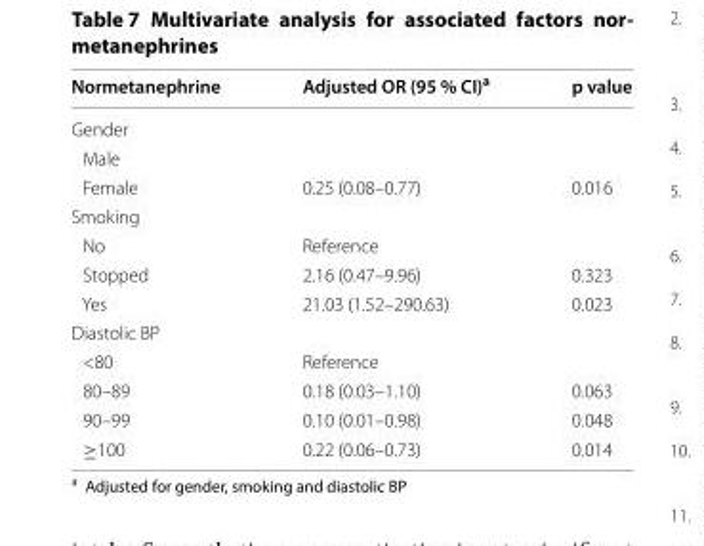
<table><thead><tr><td>Normetanephrine</td><td>Adjusted OR (95 % CI)<sup>a</sup></td><td>p value</td></tr></thead><tbody><tr><td colspan="3">Gender</td></tr><tr><td colspan="3">Male</td></tr><tr><td>Female</td><td>0.25 (0.08–0.77)</td><td>0.016</td></tr><tr><td colspan="3">Smoking</td></tr><tr><td>No</td><td>Reference</td><td></td></tr><tr><td>Stopped</td><td>2.16 (0.47–9.96)</td><td>0.323</td></tr><tr><td>Yes</td><td>21.03 (1.52–290.63)</td><td>0.023</td></tr><tr><td colspan="3">Diastolic BP</td></tr><tr><td>&lt;80</td><td>Reference</td><td></td></tr><tr><td>80–89</td><td>0.18 (0.03–1.10)</td><td>0.063</td></tr><tr><td>90–99</td><td>0.10 (0.01–0.98)</td><td>0.048</td></tr><tr><td>≥100</td><td>0.22 (0.06–0.73)</td><td>0.014</td></tr></tbody></table>